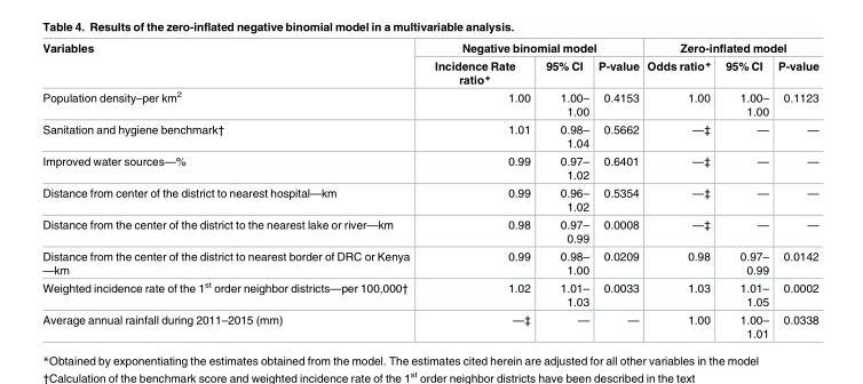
<table><thead><tr><td rowspan="2">Variables</td><td colspan="3">Negative binomial model</td><td colspan="3">Zero-inflated model</td></tr><tr><td>Incidence Rate ratio*</td><td>95% CI</td><td>P-value</td><td>Odds ratio*</td><td>95% CI</td><td>P-value</td></tr></thead><tbody><tr><td>Population density–per km<sup>2</sup></td><td>1.00</td><td>1.00– 1.00</td><td>0.4153</td><td>1.00</td><td>1.00– 1.00</td><td>0.1123</td></tr><tr><td>Sanitation and hygiene benchmark†</td><td>1.01</td><td>0.98– 1.04</td><td>0.5662</td><td>—‡</td><td>—</td><td>—</td></tr><tr><td>Improved water sources—%</td><td>0.99</td><td>0.97– 1.02</td><td>0.6401</td><td>—‡</td><td>—</td><td>—</td></tr><tr><td>Distance from center of the district to nearest hospital—km</td><td>0.99</td><td>0.96– 1.02</td><td>0.5354</td><td>—‡</td><td>—</td><td>—</td></tr><tr><td>Distance from the center of the district to the nearest lake or river—km</td><td>0.98</td><td>0.97– 0.99</td><td>0.0008</td><td>—‡</td><td>—</td><td>—</td></tr><tr><td>Distance from the center of the district to nearest border of DRC or Kenya —km</td><td>0.99</td><td>0.98– 1.00</td><td>0.0209</td><td>0.98</td><td>0.97– 0.99</td><td>0.0142</td></tr><tr><td>Weighted incidence rate of the 1<sup>st</sup> order neighbor districts—per 100,000†</td><td>1.02</td><td>1.01– 1.03</td><td>0.0033</td><td>1.03</td><td>1.01– 1.05</td><td>0.0002</td></tr><tr><td>Average annual rainfall during 2011–2015 (mm)</td><td>—‡</td><td>—</td><td>—</td><td>1.00</td><td>1.00– 1.01</td><td>0.0338</td></tr></tbody></table>